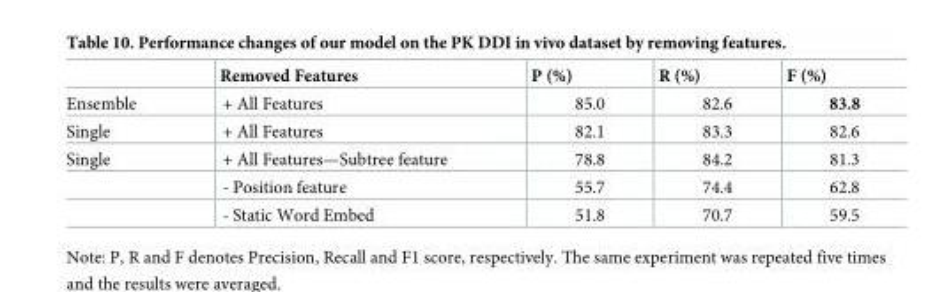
<table><thead><tr><td></td><td>Removed Features</td><td>P (%)</td><td>R (%)</td><td>F (%)</td></tr></thead><tbody><tr><td>Ensemble</td><td>+ All Features</td><td>85.0</td><td>82.6</td><td>83.8</td></tr><tr><td>Single</td><td>+ All Features</td><td>82.1</td><td>83.3</td><td>82.6</td></tr><tr><td rowspan="3">Single</td><td>+ All Features—Subtree feature</td><td>78.8</td><td>84.2</td><td>81.3</td></tr><tr><td>- Position feature</td><td>55.7</td><td>74.4</td><td>62.8</td></tr><tr><td>- Static Word Embed</td><td>51.8</td><td>70.7</td><td>59.5</td></tr></tbody></table>